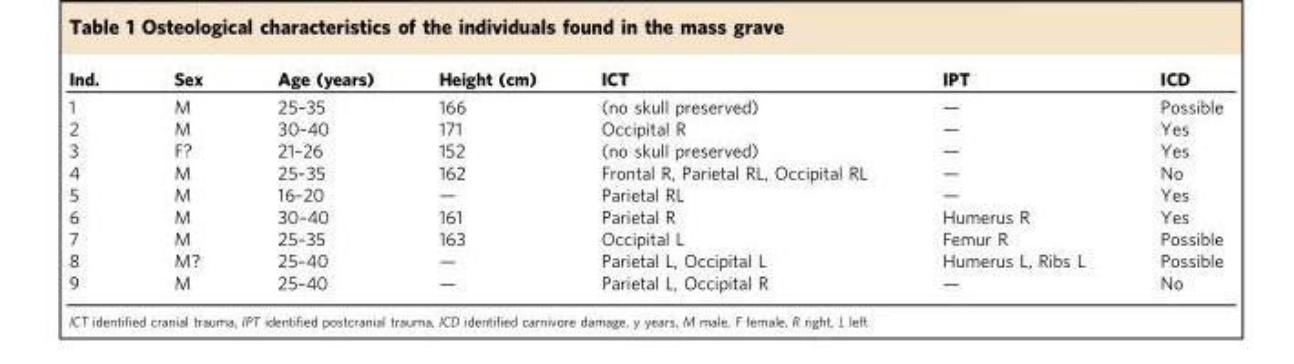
<table><thead><tr><td>Ind.</td><td>Sex</td><td>Age (years)</td><td>Height (cm)</td><td>ICT</td><td>IPT</td><td>ICD</td></tr></thead><tbody><tr><td>1</td><td>M</td><td>25–35</td><td>166</td><td>(no skull preserved)</td><td>—</td><td>Possible</td></tr><tr><td>2</td><td>M</td><td>30–40</td><td>171</td><td>Occipital R</td><td>—</td><td>Yes</td></tr><tr><td>3</td><td>F?</td><td>21–26</td><td>152</td><td>(no skull preserved)</td><td>—</td><td>Yes</td></tr><tr><td>4</td><td>M</td><td>25–35</td><td>162</td><td>Frontal R, Parietal RL, Occipital RL</td><td>—</td><td>No</td></tr><tr><td>5</td><td>M</td><td>16–20</td><td>—</td><td>Parietal RL</td><td>—</td><td>Yes</td></tr><tr><td>6</td><td>M</td><td>30–40</td><td>161</td><td>Parietal R</td><td>Humerus R</td><td>Yes</td></tr><tr><td>7</td><td>M</td><td>25–35</td><td>163</td><td>Occipital L</td><td>Femur R</td><td>Possible</td></tr><tr><td>8</td><td>M?</td><td>25–40</td><td>—</td><td>Parietal L, Occipital L</td><td>Humerus L, Ribs L</td><td>Possible</td></tr><tr><td>9</td><td>M</td><td>25–40</td><td>—</td><td>Parietal L, Occipital R</td><td>—</td><td>No</td></tr></tbody></table>